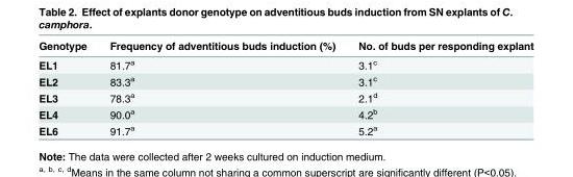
<table><thead><tr><td>Genotype</td><td>Frequency of adventitious buds induction (%)</td><td>No. of buds per responding explant</td></tr></thead><tbody><tr><td>EL1</td><td>81.7<sup>a</sup></td><td>3.1<sup>c</sup></td></tr><tr><td>EL2</td><td>83.3<sup>a</sup></td><td>3.1<sup>c</sup></td></tr><tr><td>EL3</td><td>78.3<sup>a</sup></td><td>2.1<sup>d</sup></td></tr><tr><td>EL4</td><td>90.0<sup>a</sup></td><td>4.2<sup>b</sup></td></tr><tr><td>EL6</td><td>91.7<sup>a</sup></td><td>5.2<sup>a</sup></td></tr></tbody></table>